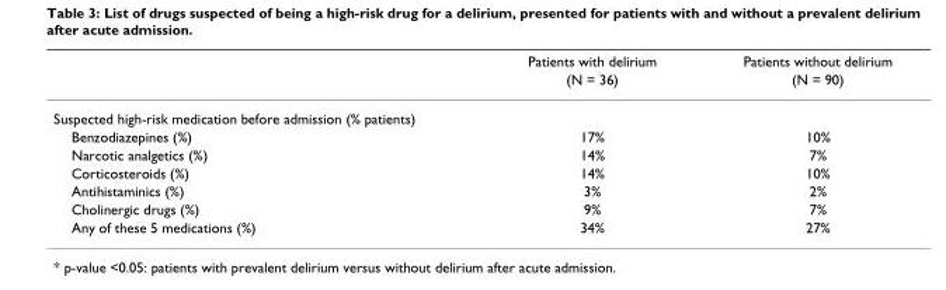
<table><thead><tr><td rowspan="2"></td><td rowspan="2">Patients with delirium (N = 36)</td><td rowspan="2">Patients without delirium (N = 90)</td></tr><tr></tr></thead><tbody><tr><td colspan="3">Suspected high-risk medication before admission (% patients)</td></tr><tr><td>Benzodiazepines (%)</td><td>17%</td><td>10%</td></tr><tr><td>Narcotic analgetics (%)</td><td>14%</td><td>7%</td></tr><tr><td>Corticosteroids (%)</td><td>14%</td><td>10%</td></tr><tr><td>Antihistaminics (%)</td><td>3%</td><td>2%</td></tr><tr><td>Cholinergic drugs (%)</td><td>9%</td><td>7%</td></tr><tr><td>Any of these 5 medications (%)</td><td>34%</td><td>27%</td></tr></tbody></table>